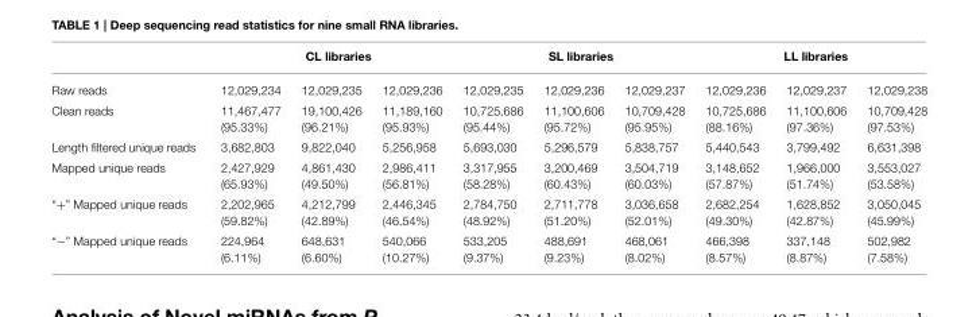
<table><thead><tr><td rowspan="2">Raw reads</td><td colspan="3">CL libraries</td><td colspan="3">SL libraries</td><td colspan="3">LL libraries</td></tr><tr><td>12,029,234</td><td>12,029,235</td><td>12,029,236</td><td>12,029,235</td><td>12,029,236</td><td>12,029,237</td><td>12,029,236</td><td>12,029,237</td><td>12,029,238</td></tr></thead><tbody><tr><td>Clean reads</td><td>11,467,477 (95.33%)</td><td>19,100,426 (96.21%)</td><td>11,189,160 (95.93%)</td><td>10,725,686 (95.44%)</td><td>11,100,606 (95.72%)</td><td>10,709,428 (95.95%)</td><td>10,725,686 (88.16%)</td><td>11,100,606 (97.36%)</td><td>10,709,428 (97.53%)</td></tr><tr><td>Length filtered unique reads</td><td>3,682,803</td><td>9,822,040</td><td>5,256,958</td><td>5,693,030</td><td>5,296,579</td><td>5,838,757</td><td>5,440,543</td><td>3,799,492</td><td>6,631,398</td></tr><tr><td>Mapped unique reads</td><td>2,427,929 (65.93%)</td><td>4,861,430 (49.50%)</td><td>2,986,411 (56.81%)</td><td>3,317,955 (58.28%)</td><td>3,200,469 (60.43%)</td><td>3,504,719 (60.03%)</td><td>3,148,652 (57.87%)</td><td>1,966,000 (51.74%)</td><td>3,553,027 (53.58%)</td></tr><tr><td>“+” Mapped unique reads</td><td>2,202,965 (59.82%)</td><td>4,212,799 (42.89%)</td><td>2,446,345 (46.54%)</td><td>2,784,750 (48.92%)</td><td>2,711,778 (51.20%)</td><td>3,036,658 (52.01%)</td><td>2,682,254 (49.30%)</td><td>1,628,852 (42.87%)</td><td>3,050,045 (45.99%)</td></tr><tr><td>“−” Mapped unique reads</td><td>224,964 (6.11%)</td><td>648,631 (6.60%)</td><td>540,066 (10.27%)</td><td>533,205 (9.37%)</td><td>488,691 (9.23%)</td><td>468,061 (8.02%)</td><td>466,398 (8.57%)</td><td>337,148 (8.87%)</td><td>502,982 (7.58%)</td></tr></tbody></table>